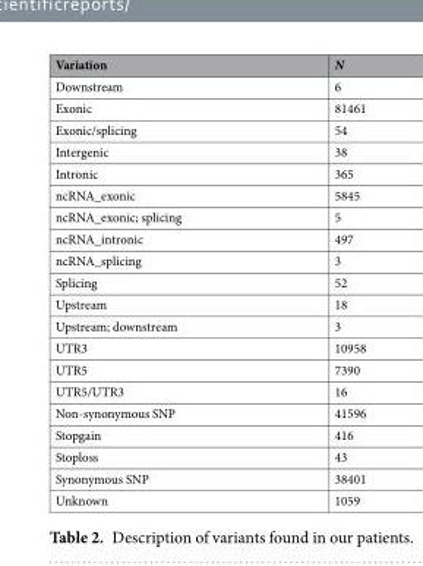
<table><thead><tr><td>Variation</td><td>N</td></tr></thead><tbody><tr><td>Downstream</td><td>6</td></tr><tr><td>Exonic</td><td>81461</td></tr><tr><td>Exonic/splicing</td><td>54</td></tr><tr><td>Intergenic</td><td>38</td></tr><tr><td>Intronic</td><td>365</td></tr><tr><td>ncRNA_exonic</td><td>5845</td></tr><tr><td>ncRNA_exonic; splicing</td><td>5</td></tr><tr><td>ncRNA_intronic</td><td>497</td></tr><tr><td>ncRNA_splicing</td><td>3</td></tr><tr><td>Splicing</td><td>52</td></tr><tr><td>Upstream</td><td>18</td></tr><tr><td>Upstream; downstream</td><td>3</td></tr><tr><td>UTR3</td><td>10958</td></tr><tr><td>UTR5</td><td>7390</td></tr><tr><td>UTR5/UTR3</td><td>16</td></tr><tr><td>Non-synonymous SNP</td><td>41596</td></tr><tr><td>Stopgain</td><td>416</td></tr><tr><td>Stoploss</td><td>43</td></tr><tr><td>Synonymous SNP</td><td>38401</td></tr><tr><td>Unknown</td><td>1059</td></tr></tbody></table>